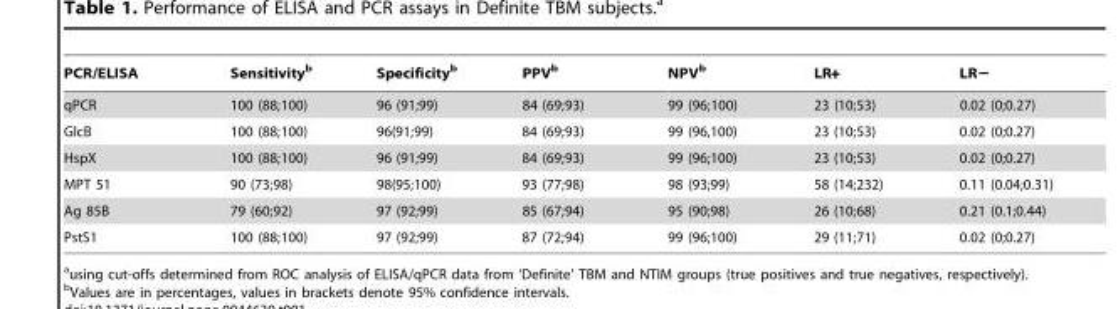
<table><thead><tr><td>PCR/ELISA</td><td>Sensitivity<sup>b</sup></td><td>Specificity<sup>b</sup></td><td>PPV<sup>b</sup></td><td>NPV<sup>b</sup></td><td>LR+</td><td>LR−</td></tr></thead><tbody><tr><td>qPCR</td><td>100 (88;100)</td><td>96 (91;99)</td><td>84 (69;93)</td><td>99 (96;100)</td><td>23 (10;53)</td><td>0.02 (0;0.27)</td></tr><tr><td>GlcB</td><td>100 (88;100)</td><td>96(91;99)</td><td>84 (69;93)</td><td>99 (96,100)</td><td>23 (10;53)</td><td>0.02 (0;0.27)</td></tr><tr><td>HspX</td><td>100 (88;100)</td><td>96 (91;99)</td><td>84 (69;93)</td><td>99 (96;100)</td><td>23 (10;53)</td><td>0.02 (0;0.27)</td></tr><tr><td>MPT 51</td><td>90 (73;98)</td><td>98(95;100)</td><td>93 (77;98)</td><td>98 (93;99)</td><td>58 (14;232)</td><td>0.11 (0.04;0.31)</td></tr><tr><td>Ag 85B</td><td>79 (60;92)</td><td>97 (92;99)</td><td>85 (67;94)</td><td>95 (90;98)</td><td>26 (10;68)</td><td>0.21 (0.1;0.44)</td></tr><tr><td>PstS1</td><td>100 (88;100)</td><td>97 (92;99)</td><td>87 (72;94)</td><td>99 (96;100)</td><td>29 (11;71)</td><td>0.02 (0;0.27)</td></tr></tbody></table>